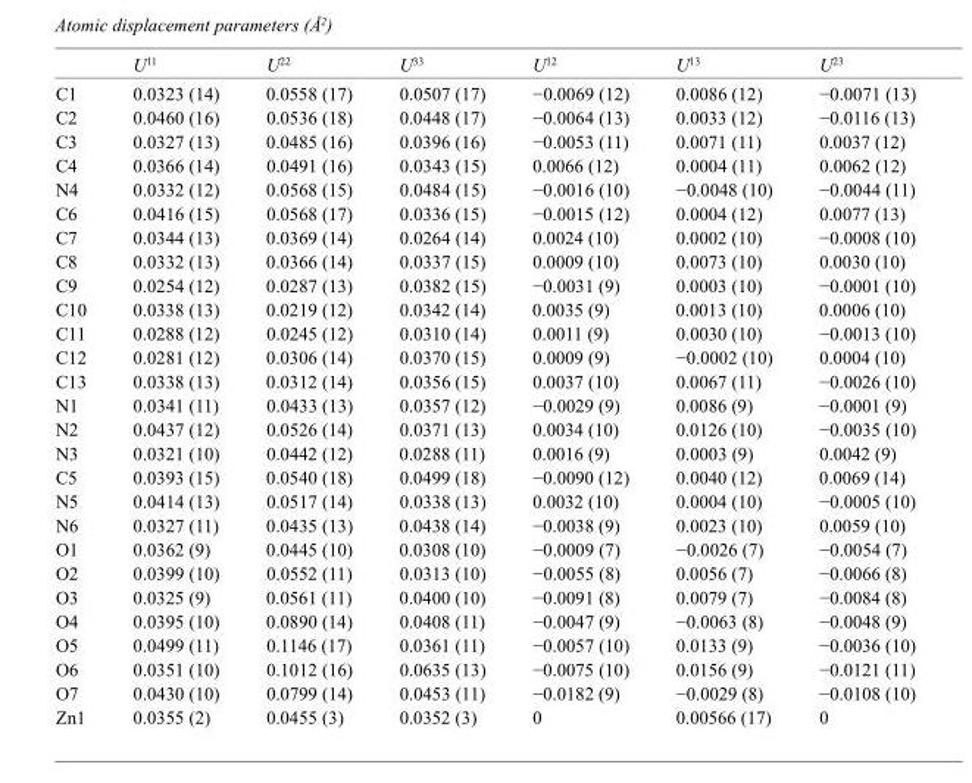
<table><thead><tr><td></td><td>U<sup>11</sup></td><td>U<sup>22</sup></td><td>U<sup>33</sup></td><td>U<sup>12</sup></td><td>U<sup>13</sup></td><td>U<sup>23</sup></td></tr></thead><tbody><tr><td>C1</td><td>0.0323 (14)</td><td>0.0558 (17)</td><td>0.0507 (17)</td><td>−0.0069 (12)</td><td>0.0086 (12)</td><td>−0.0071 (13)</td></tr><tr><td>C2</td><td>0.0460 (16)</td><td>0.0536 (18)</td><td>0.0448 (17)</td><td>−0.0064 (13)</td><td>0.0033 (12)</td><td>−0.0116 (13)</td></tr><tr><td>C3</td><td>0.0327 (13)</td><td>0.0485 (16)</td><td>0.0396 (16)</td><td>−0.0053 (11)</td><td>0.0071 (11)</td><td>0.0037 (12)</td></tr><tr><td>C4</td><td>0.0366 (14)</td><td>0.0491 (16)</td><td>0.0343 (15)</td><td>0.0066 (12)</td><td>0.0004 (11)</td><td>0.0062 (12)</td></tr><tr><td>N4</td><td>0.0332 (12)</td><td>0.0568 (15)</td><td>0.0484 (15)</td><td>−0.0016 (10)</td><td>−0.0048 (10)</td><td>−0.0044 (11)</td></tr><tr><td>C6</td><td>0.0416 (15)</td><td>0.0568 (17)</td><td>0.0336 (15)</td><td>−0.0015 (12)</td><td>0.0004 (12)</td><td>0.0077 (13)</td></tr><tr><td>C7</td><td>0.0344 (13)</td><td>0.0369 (14)</td><td>0.0264 (14)</td><td>0.0024 (10)</td><td>0.0002 (10)</td><td>−0.0008 (10)</td></tr><tr><td>C8</td><td>0.0332 (13)</td><td>0.0366 (14)</td><td>0.0337 (15)</td><td>0.0009 (10)</td><td>0.0073 (10)</td><td>0.0030 (10)</td></tr><tr><td>C9</td><td>0.0254 (12)</td><td>0.0287 (13)</td><td>0.0382 (15)</td><td>−0.0031 (9)</td><td>0.0003 (10)</td><td>−0.0001 (10)</td></tr><tr><td>C10</td><td>0.0338 (13)</td><td>0.0219 (12)</td><td>0.0342 (14)</td><td>0.0035 (9)</td><td>0.0013 (10)</td><td>0.0006 (10)</td></tr><tr><td>C11</td><td>0.0288 (12)</td><td>0.0245 (12)</td><td>0.0310 (14)</td><td>0.0011 (9)</td><td>0.0030 (10)</td><td>−0.0013 (10)</td></tr><tr><td>C12</td><td>0.0281 (12)</td><td>0.0306 (14)</td><td>0.0370 (15)</td><td>0.0009 (9)</td><td>−0.0002 (10)</td><td>0.0004 (10)</td></tr><tr><td>C13</td><td>0.0338 (13)</td><td>0.0312 (14)</td><td>0.0356 (15)</td><td>0.0037 (10)</td><td>0.0067 (11)</td><td>−0.0026 (10)</td></tr><tr><td>N1</td><td>0.0341 (11)</td><td>0.0433 (13)</td><td>0.0357 (12)</td><td>−0.0029 (9)</td><td>0.0086 (9)</td><td>−0.0001 (9)</td></tr><tr><td>N2</td><td>0.0437 (12)</td><td>0.0526 (14)</td><td>0.0371 (13)</td><td>0.0034 (10)</td><td>0.0126 (10)</td><td>−0.0035 (10)</td></tr><tr><td>N3</td><td>0.0321 (10)</td><td>0.0442 (12)</td><td>0.0288 (11)</td><td>0.0016 (9)</td><td>0.0003 (9)</td><td>0.0042 (9)</td></tr><tr><td>C5</td><td>0.0393 (15)</td><td>0.0540 (18)</td><td>0.0499 (18)</td><td>−0.0090 (12)</td><td>0.0040 (12)</td><td>0.0069 (14)</td></tr><tr><td>N5</td><td>0.0414 (13)</td><td>0.0517 (14)</td><td>0.0338 (13)</td><td>0.0032 (10)</td><td>0.0004 (10)</td><td>−0.0005 (10)</td></tr><tr><td>N6</td><td>0.0327 (11)</td><td>0.0435 (13)</td><td>0.0438 (14)</td><td>−0.0038 (9)</td><td>0.0023 (10)</td><td>0.0059 (10)</td></tr><tr><td>O1</td><td>0.0362 (9)</td><td>0.0445 (10)</td><td>0.0308 (10)</td><td>−0.0009 (7)</td><td>−0.0026 (7)</td><td>−0.0054 (7)</td></tr><tr><td>O2</td><td>0.0399 (10)</td><td>0.0552 (11)</td><td>0.0313 (10)</td><td>−0.0055 (8)</td><td>0.0056 (7)</td><td>−0.0066 (8)</td></tr><tr><td>O3</td><td>0.0325 (9)</td><td>0.0561 (11)</td><td>0.0400 (10)</td><td>−0.0091 (8)</td><td>0.0079 (7)</td><td>−0.0084 (8)</td></tr><tr><td>O4</td><td>0.0395 (10)</td><td>0.0890 (14)</td><td>0.0408 (11)</td><td>−0.0047 (9)</td><td>−0.0063 (8)</td><td>−0.0048 (9)</td></tr><tr><td>O5</td><td>0.0499 (11)</td><td>0.1146 (17)</td><td>0.0361 (11)</td><td>−0.0057 (10)</td><td>0.0133 (9)</td><td>−0.0036 (10)</td></tr><tr><td>O6</td><td>0.0351 (10)</td><td>0.1012 (16)</td><td>0.0635 (13)</td><td>−0.0075 (10)</td><td>0.0156 (9)</td><td>−0.0121 (11)</td></tr><tr><td>O7</td><td>0.0430 (10)</td><td>0.0799 (14)</td><td>0.0453 (11)</td><td>−0.0182 (9)</td><td>−0.0029 (8)</td><td>−0.0108 (10)</td></tr><tr><td>Zn1</td><td>0.0355 (2)</td><td>0.0455 (3)</td><td>0.0352 (3)</td><td>0</td><td>0.00566 (17)</td><td>0</td></tr></tbody></table>